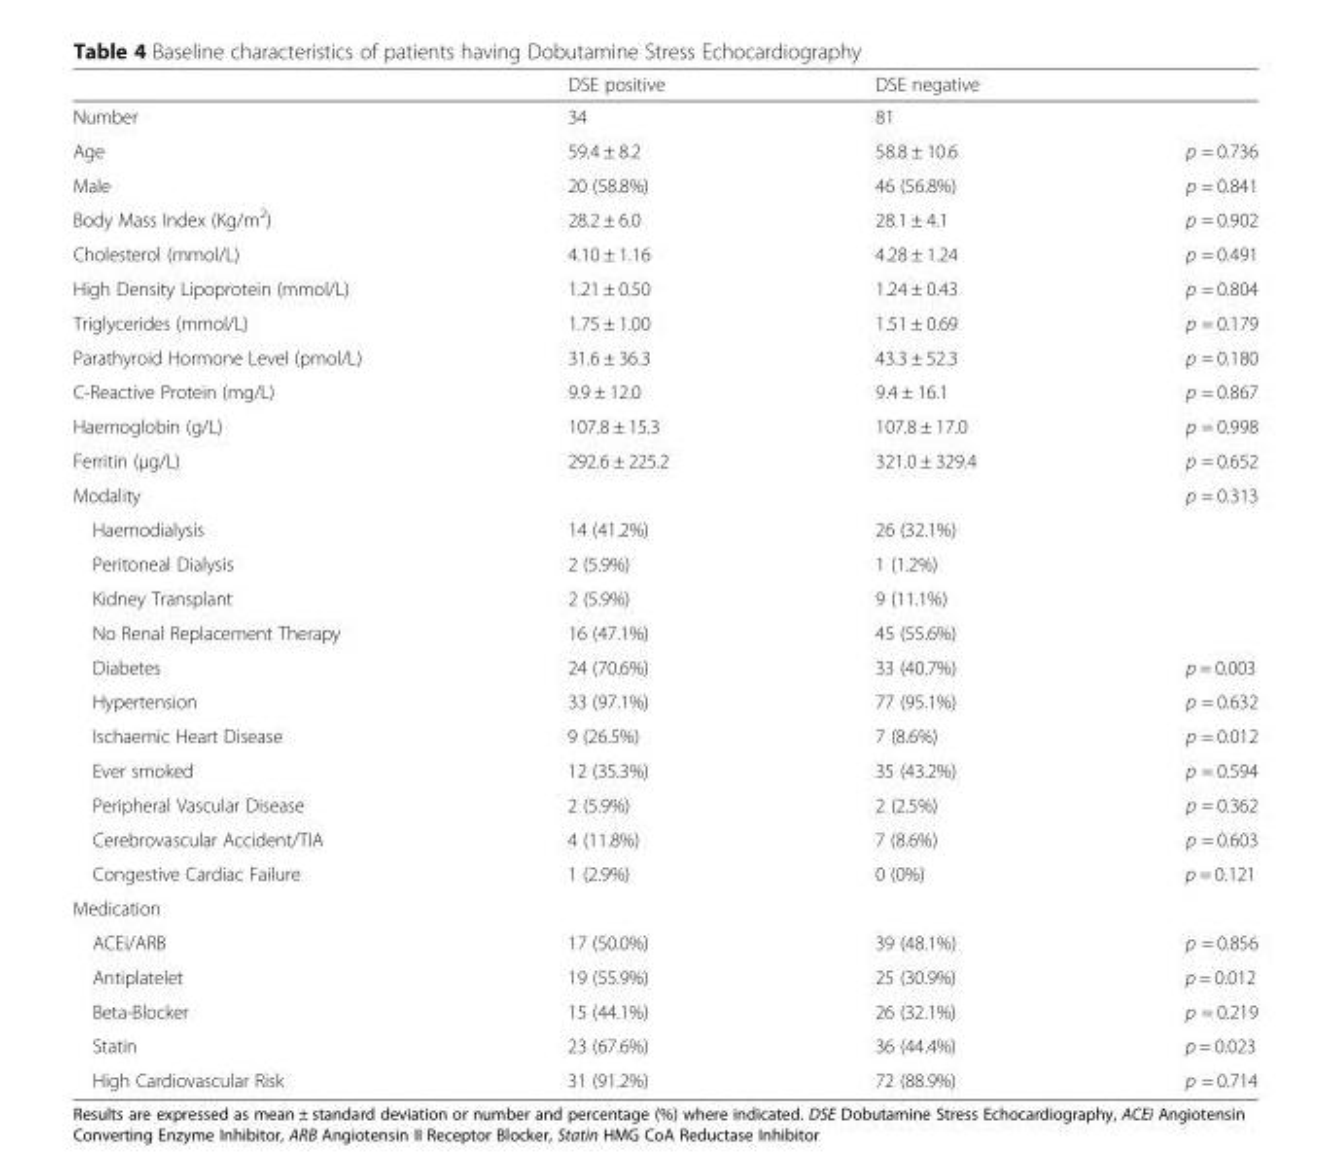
<table><thead><tr><td></td><td>DSE positive</td><td>DSE negative</td><td></td></tr></thead><tbody><tr><td>Number</td><td>34</td><td>81</td><td></td></tr><tr><td>Age</td><td>59.4 ± 8.2</td><td>58.8 ± 10.6</td><td>p = 0.736</td></tr><tr><td>Male</td><td>20 (58.8%)</td><td>46 (56.8%)</td><td>p = 0.841</td></tr><tr><td>Body Mass Index (Kg/m<sup>2</sup>)</td><td>28.2 ± 6.0</td><td>28.1 ± 4.1</td><td>p = 0.902</td></tr><tr><td>Cholesterol (mmol/L)</td><td>4.10 ± 1.16</td><td>4.28 ± 1.24</td><td>p = 0.491</td></tr><tr><td>High Density Lipoprotein (mmol/L)</td><td>1.21 ± 0.50</td><td>1.24 ± 0.43</td><td>p = 0.804</td></tr><tr><td>Triglycerides (mmol/L)</td><td>1.75 ± 1.00</td><td>1.51 ± 0.69</td><td>p = 0.179</td></tr><tr><td>Parathyroid Hormone Level (pmol/L)</td><td>31.6 ± 36.3</td><td>43.3 ± 52.3</td><td>p = 0.180</td></tr><tr><td>C-Reactive Protein (mg/L)</td><td>9.9 ± 12.0</td><td>9.4 ± 16.1</td><td>p = 0.867</td></tr><tr><td>Haemoglobin (g/L)</td><td>107.8 ± 15.3</td><td>107.8 ± 17.0</td><td>p = 0.998</td></tr><tr><td>Ferritin (μg/L)</td><td>292.6 ± 225.2</td><td>321.0 ± 329.4</td><td>p = 0.652</td></tr><tr><td colspan="3">Modality</td><td>p = 0.313</td></tr><tr><td>Haemodialysis</td><td>14 (41.2%)</td><td>26 (32.1%)</td><td rowspan="4"></td></tr><tr><td>Peritoneal Dialysis</td><td>2 (5.9%)</td><td>1 (1.2%)</td></tr><tr><td>Kidney Transplant</td><td>2 (5.9%)</td><td>9 (11.1%)</td></tr><tr><td>No Renal Replacement Therapy</td><td>16 (47.1%)</td><td>45 (55.6%)</td></tr><tr><td>Diabetes</td><td>24 (70.6%)</td><td>33 (40.7%)</td><td>p = 0.003</td></tr><tr><td>Hypertension</td><td>33 (97.1%)</td><td>77 (95.1%)</td><td>p = 0.632</td></tr><tr><td>Ischaemic Heart Disease</td><td>9 (26.5%)</td><td>7 (8.6%)</td><td>p = 0.012</td></tr><tr><td>Ever smoked</td><td>12 (35.3%)</td><td>35 (43.2%)</td><td>p = 0.594</td></tr><tr><td>Peripheral Vascular Disease</td><td>2 (5.9%)</td><td>2 (2.5%)</td><td>p = 0.362</td></tr><tr><td>Cerebrovascular Accident/TIA</td><td>4 (11.8%)</td><td>7 (8.6%)</td><td>p = 0.603</td></tr><tr><td>Congestive Cardiac Failure</td><td>1 (2.9%)</td><td>0 (0%)</td><td>p = 0.121</td></tr><tr><td colspan="4">Medication</td></tr><tr><td>ACEi/ARB</td><td>17 (50.0%)</td><td>39 (48.1%)</td><td>p = 0.856</td></tr><tr><td>Antiplatelet</td><td>19 (55.9%)</td><td>25 (30.9%)</td><td>p = 0.012</td></tr><tr><td>Beta-Blocker</td><td>15 (44.1%)</td><td>26 (32.1%)</td><td>p = 0.219</td></tr><tr><td>Statin</td><td>23 (67.6%)</td><td>36 (44.4%)</td><td>p = 0.023</td></tr><tr><td>High Cardiovascular Risk</td><td>31 (91.2%)</td><td>72 (88.9%)</td><td>p = 0.714</td></tr></tbody></table>